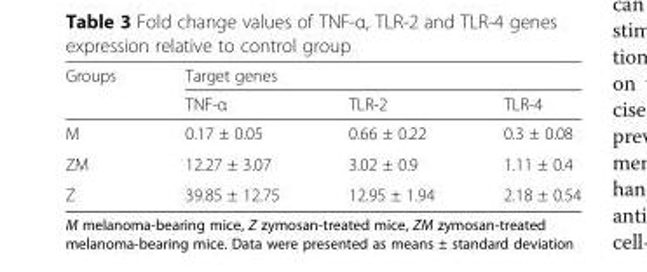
<table><thead><tr><td rowspan="2">Groups</td><td colspan="3">Target genes</td></tr><tr><td>TNF-α</td><td>TLR-2</td><td>TLR-4</td></tr></thead><tbody><tr><td>M</td><td>0.17 ± 0.05</td><td>0.66 ± 0.22</td><td>0.3 ± 0.08</td></tr><tr><td>ZM</td><td>12.27 ± 3.07</td><td>3.02 ± 0.9</td><td>1.11 ± 0.4</td></tr><tr><td>Z</td><td>39.85 ± 12.75</td><td>12.95 ± 1.94</td><td>2.18 ± 0.54</td></tr></tbody></table>